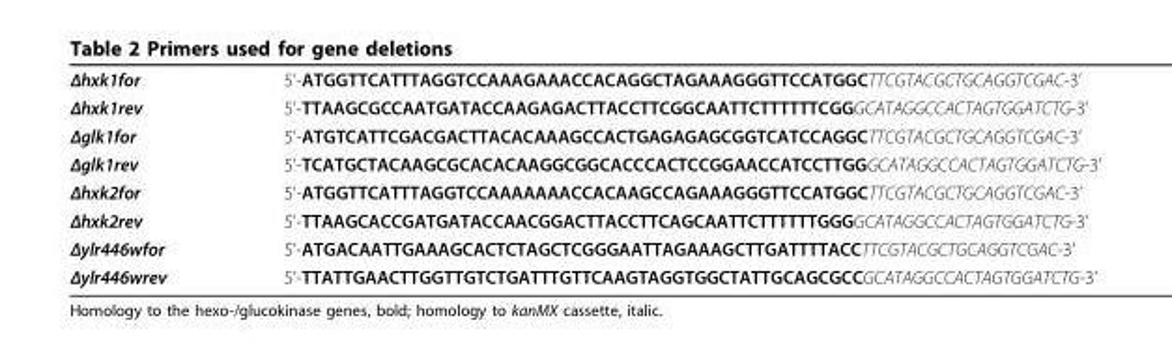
<table><tbody><tr><td>Δhxk1for</td><td>5’-ATGGTTCATTTAGGTCCAAAGAAACCACAGGCTAGAAAGGGTTCCATGGCTTCGTACGCTGCAGGTCGAC-3’</td></tr><tr><td>Δhxk1rev</td><td>5’-TTAAGCGCCAATGATACCAAGAGACTTACCTTCGGCAATTCTTTTTTCGGGCATAGGCCACTAGTGGATCTG-3’</td></tr><tr><td>Δglk1for</td><td>5’-ATGTCATTCGACGACTTACACAAAGCCACTGAGAGAGCGGTCATCCAGGCTTCGTACGCTGCAGGTCGAC-3’</td></tr><tr><td>Δglk1rev</td><td>5’-TCATGCTACAAGCGCACACAAGGCGGCACCCACTCCGGAACCATCCTTGGGCATAGGCCACTAGTGGATCTG-3’</td></tr><tr><td>Δhxk2for</td><td>5’-ATGGTTCATTTAGGTCCAAAAAAACCACAAGCCAGAAAGGGTTCCATGGCTTCGTACGCTGCAGGTCGAC-3’</td></tr><tr><td>Δhxk2rev</td><td>5’-TTAAGCACCGATGATACCAACGGACTTACCTTCAGCAATTCTTTTTTGGGGCATAGGCCACTAGTGGATCTG-3’</td></tr><tr><td>Δylr446wfor</td><td>5’-ATGACAATTGAAAGCACTCTAGCTCGGGAATTAGAAAGCTTGATTTTACCTTCGTACGCTGCAGGTCGAC-3’</td></tr><tr><td>Δylr446wrev</td><td>5’-TTATTGAACTTGGTTGTCTGATTTGTTCAAGTAGGTGGCTATTGCAGCGCCGCATAGGCCACTAGTGGATCTG-3’</td></tr></tbody></table>